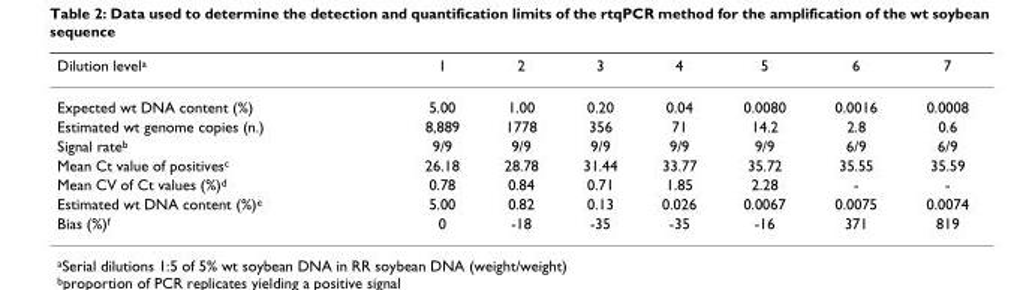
<table><thead><tr><td>Dilution level<sup>a</sup></td><td>1</td><td>2</td><td>3</td><td>4</td><td>5</td><td>6</td><td>7</td></tr></thead><tbody><tr><td>Expected wt DNA content (%)</td><td>5.00</td><td>1.00</td><td>0.20</td><td>0.04</td><td>0.0080</td><td>0.0016</td><td>0.0008</td></tr><tr><td>Estimated wt genome copies (n.)</td><td>8,889</td><td>1778</td><td>356</td><td>71</td><td>14.2</td><td>2.8</td><td>0.6</td></tr><tr><td>Signal rate<sup>b</sup></td><td>9/9</td><td>9/9</td><td>9/9</td><td>9/9</td><td>9/9</td><td>6/9</td><td>6/9</td></tr><tr><td>Mean Ct value of positives<sup>c</sup></td><td>26.18</td><td>28.78</td><td>31.44</td><td>33.77</td><td>35.72</td><td>35.55</td><td>35.59</td></tr><tr><td>Mean CV of Ct values (%)<sup>d</sup></td><td>0.78</td><td>0.84</td><td>0.71</td><td>1.85</td><td>2.28</td><td>-</td><td>-</td></tr><tr><td>Estimated wt DNA content (%)<sup>e</sup></td><td>5.00</td><td>0.82</td><td>0.13</td><td>0.026</td><td>0.0067</td><td>0.0075</td><td>0.0074</td></tr><tr><td>Bias (%)<sup>f</sup></td><td>0</td><td>-18</td><td>-35</td><td>-35</td><td>-16</td><td>371</td><td>819</td></tr></tbody></table>